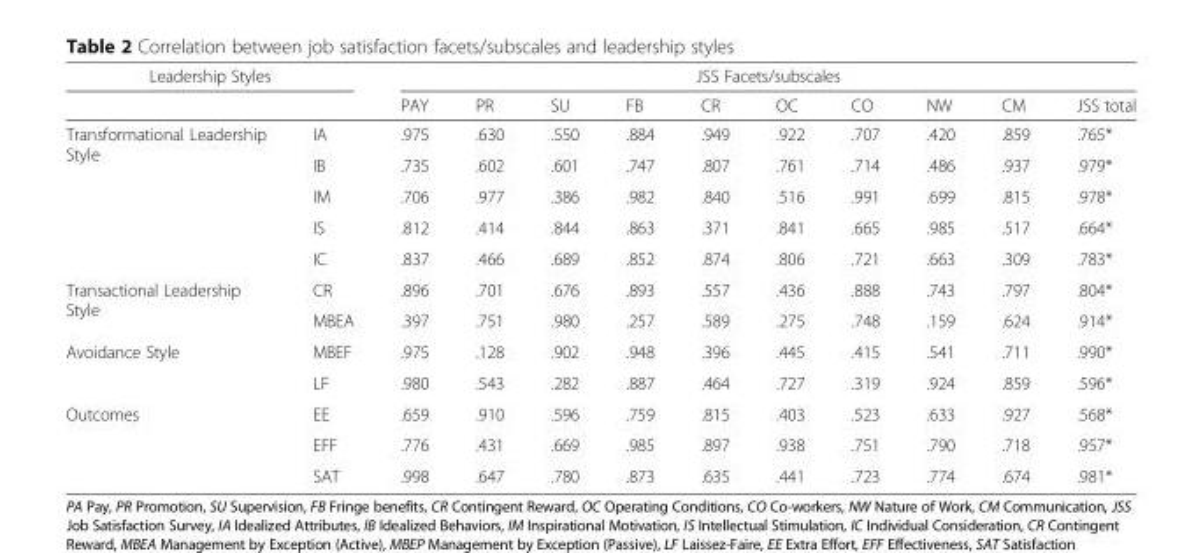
<table><thead><tr><td colspan="2">Leadership Styles</td><td colspan="10">JSS Facets/subscales</td></tr><tr><td></td><td></td><td>PAY</td><td>PR</td><td>SU</td><td>FB</td><td>CR</td><td>OC</td><td>CO</td><td>NW</td><td>CM</td><td>JSS total</td></tr></thead><tbody><tr><td rowspan="5">Transformational Leadership Style</td><td>IA</td><td>.975</td><td>.630</td><td>.550</td><td>.884</td><td>.949</td><td>.922</td><td>.707</td><td>.420</td><td>.859</td><td>.765*</td></tr><tr><td>IB</td><td>.735</td><td>.602</td><td>.601</td><td>.747</td><td>.807</td><td>.761</td><td>.714</td><td>.486</td><td>.937</td><td>.979*</td></tr><tr><td>IM</td><td>.706</td><td>.977</td><td>.386</td><td>.982</td><td>.840</td><td>.516</td><td>.991</td><td>.699</td><td>.815</td><td>.978*</td></tr><tr><td>IS</td><td>.812</td><td>.414</td><td>.844</td><td>.863</td><td>.371</td><td>.841</td><td>.665</td><td>.985</td><td>.517</td><td>.664*</td></tr><tr><td>IC</td><td>.837</td><td>.466</td><td>.689</td><td>.852</td><td>.874</td><td>.806</td><td>.721</td><td>.663</td><td>.309</td><td>.783*</td></tr><tr><td rowspan="2">Transactional Leadership Style</td><td>CR</td><td>.896</td><td>.701</td><td>.676</td><td>.893</td><td>.557</td><td>.436</td><td>.888</td><td>.743</td><td>.797</td><td>.804*</td></tr><tr><td>MBEA</td><td>.397</td><td>.751</td><td>.980</td><td>.257</td><td>.589</td><td>.275</td><td>.748</td><td>.159</td><td>.624</td><td>.914*</td></tr><tr><td rowspan="2">Avoidance Style</td><td>MBEF</td><td>.975</td><td>.128</td><td>.902</td><td>.948</td><td>.396</td><td>.445</td><td>.415</td><td>.541</td><td>.711</td><td>.990*</td></tr><tr><td>LF</td><td>.980</td><td>.543</td><td>.282</td><td>.887</td><td>.464</td><td>.727</td><td>.319</td><td>.924</td><td>.859</td><td>.596*</td></tr><tr><td rowspan="3">Outcomes</td><td>EE</td><td>.659</td><td>.910</td><td>.596</td><td>.759</td><td>.815</td><td>.403</td><td>.523</td><td>.633</td><td>.927</td><td>.568*</td></tr><tr><td>EFF</td><td>.776</td><td>.431</td><td>.669</td><td>.985</td><td>.897</td><td>.938</td><td>.751</td><td>.790</td><td>.718</td><td>.957*</td></tr><tr><td>SAT</td><td>.998</td><td>.647</td><td>.780</td><td>.873</td><td>.635</td><td>.441</td><td>.723</td><td>.774</td><td>.674</td><td>.981*</td></tr></tbody></table>